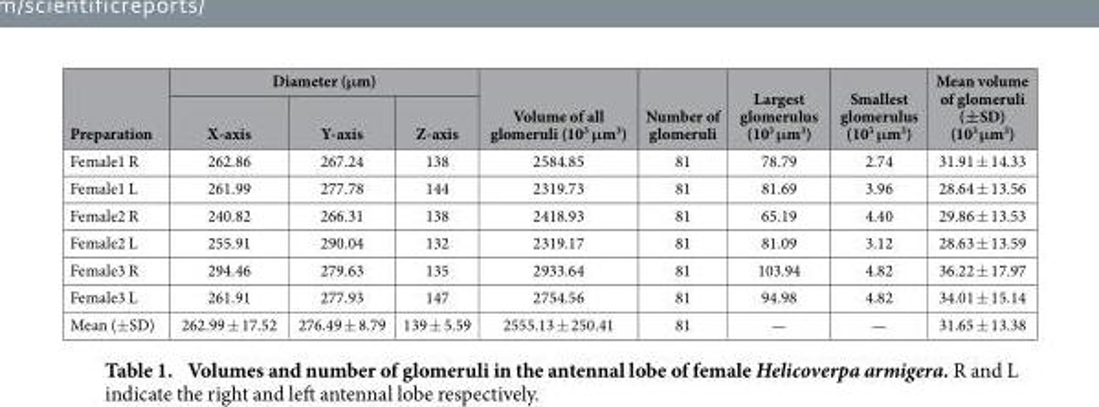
<table><thead><tr><td rowspan="2">Preparation</td><td colspan="3">Diameter (μm)</td><td rowspan="2">Volume of all glomeruli (10<sup>3</sup> μm<sup>3</sup>)</td><td rowspan="2">Number of glomeruli</td><td rowspan="2">Largest glomerulus (10<sup>3</sup> μm<sup>3</sup>)</td><td rowspan="2">Smallest glomerulus (10<sup>3</sup> μm<sup>3</sup>)</td><td rowspan="2">Mean volume of glomeruli (±SD) (10<sup>3</sup> μm<sup>3</sup>)</td></tr><tr><td>X-axis</td><td>Y-axis</td><td>Z-axis</td></tr></thead><tbody><tr><td>Female1 R</td><td>262.86</td><td>267.24</td><td>138</td><td>2584.85</td><td>81</td><td>78.79</td><td>2.74</td><td>31.91 ± 14.33</td></tr><tr><td>Female1 L</td><td>261.99</td><td>277.78</td><td>144</td><td>2319.73</td><td>81</td><td>81.69</td><td>3.96</td><td>28.64 ± 13.56</td></tr><tr><td>Female2 R</td><td>240.82</td><td>266.31</td><td>138</td><td>2418.93</td><td>81</td><td>65.19</td><td>4.40</td><td>29.86 ± 13.53</td></tr><tr><td>Female2 L</td><td>255.91</td><td>290.04</td><td>132</td><td>2319.17</td><td>81</td><td>81.09</td><td>3.12</td><td>28.63 ± 13.59</td></tr><tr><td>Female3 R</td><td>294.46</td><td>279.63</td><td>135</td><td>2933.64</td><td>81</td><td>103.94</td><td>4.82</td><td>36.22 ± 17.97</td></tr><tr><td>Female3 L</td><td>261.91</td><td>277.93</td><td>147</td><td>2754.56</td><td>81</td><td>94.98</td><td>4.82</td><td>34.01 ± 15.14</td></tr><tr><td>Mean (± SD)</td><td>262.99 ± 17.52</td><td>276.49 ± 8.79</td><td>139 ± 5.59</td><td>2555.13 ± 250.41</td><td>81</td><td>—</td><td>—</td><td>31.65 ± 13.38</td></tr></tbody></table>